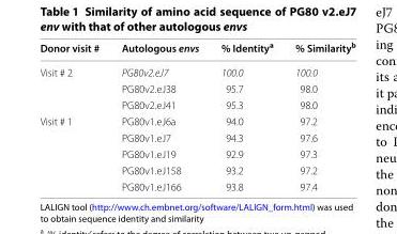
<table><thead><tr><td>Donor visit #</td><td>Autologous envs</td><td>% Identity<sup>a</sup></td><td>% Similarity<sup>b</sup></td></tr></thead><tbody><tr><td rowspan="3">Visit # 2</td><td>PG80v2.eJ7</td><td>100.0</td><td>100.0</td></tr><tr><td>PG80v2.eJ38</td><td>95.7</td><td>98.0</td></tr><tr><td>PG80v2.eJ41</td><td>95.3</td><td>98.0</td></tr><tr><td rowspan="5">Visit # 1</td><td>PG80v1.eJ6a</td><td>94.0</td><td>97.2</td></tr><tr><td>PG80v1.eJ7</td><td>94.3</td><td>97.6</td></tr><tr><td>PG80v1.eJ19</td><td>92.9</td><td>97.3</td></tr><tr><td>PG80v1.eJ158</td><td>93.2</td><td>97.2</td></tr><tr><td>PG80v1.eJ166</td><td>93.8</td><td>97.4</td></tr></tbody></table>